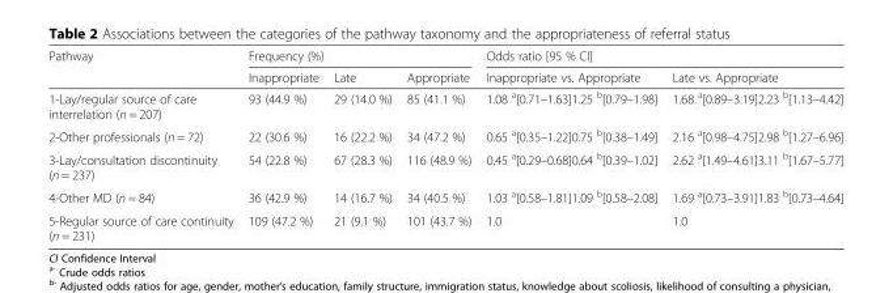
<table><thead><tr><td rowspan="2">Pathway</td><td colspan="3">Frequency (%)</td><td colspan="2">Odds ratio [95 % CI]</td></tr><tr><td>Inappropriate</td><td>Late</td><td>Appropriate</td><td>Inappropriate vs. Appropriate</td><td>Late vs. Appropriate</td></tr></thead><tbody><tr><td>1-Lay/regular source of care interrelation (n = 207)</td><td>93 (44.9 %)</td><td>29 (14.0 %)</td><td>85 (41.1 %)</td><td>1.08 <sup>a</sup>[0.71–1.63]1.25 <sup>b</sup>[0.79–1.98]</td><td>1.68 <sup>a</sup>[0.89–3.19]2.23 <sup>b</sup>[1.13–4.42]</td></tr><tr><td>2-Other professionals (n = 72)</td><td>22 (30.6 %)</td><td>16 (22.2 %)</td><td>34 (47.2 %)</td><td>0.65 <sup>a</sup>[0.35–1.22]0.75 <sup>b</sup>[0.38–1.49]</td><td>2.16 <sup>a</sup>[0.98–4.75]2.98 <sup>b</sup>[1.27–6.96]</td></tr><tr><td>3-Lay/consultation discontinuity (n = 237)</td><td>54 (22.8 %)</td><td>67 (28.3 %)</td><td>116 (48.9 %)</td><td>0.45 <sup>a</sup>[0.29–0.68]0.64 <sup>b</sup>[0.39–1.02]</td><td>2.62 <sup>a</sup>[1.49–4.61]3.11 <sup>b</sup>[1.67–5.77]</td></tr><tr><td>4-Other MD (n = 84)</td><td>36 (42.9 %)</td><td>14 (16.7 %)</td><td>34 (40.5 %)</td><td>1.03 <sup>a</sup>[0.58–1.81]1.09 <sup>b</sup>[0.58–2.08]</td><td>1.69 <sup>a</sup>[0.73–3.91]1.83 <sup>b</sup>[0.73–4.64]</td></tr><tr><td>5-Regular source of care continuity (n = 231)</td><td>109 (47.2 %)</td><td>21 (9.1 %)</td><td>101 (43.7 %)</td><td>1.0</td><td>1.0</td></tr></tbody></table>